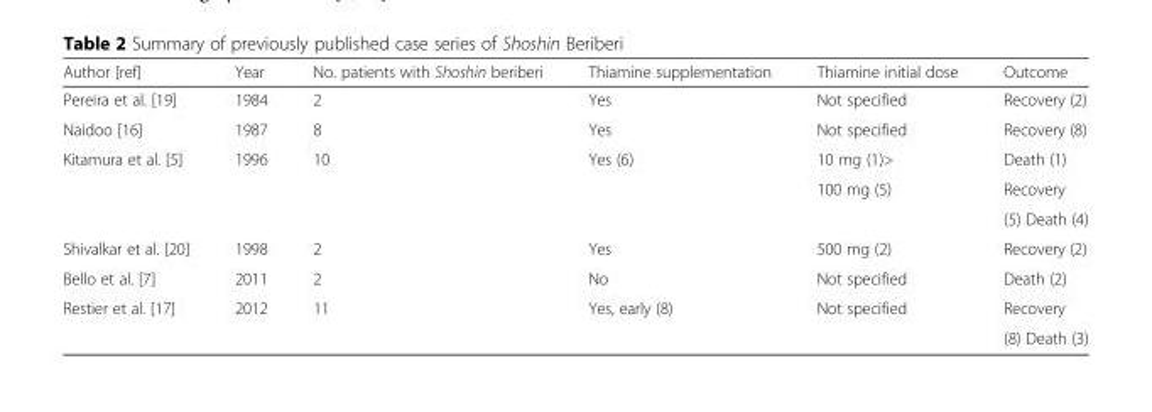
<table><thead><tr><td>Author [ref]</td><td>Year</td><td>No. patients with Shoshin beriberi</td><td>Thiamine supplementation</td><td>Thiamine initial dose</td><td>Outcome</td></tr></thead><tbody><tr><td>Pereira et al. [19]</td><td>1984</td><td>2</td><td>Yes</td><td>Not specified</td><td>Recovery (2)</td></tr><tr><td>Naidoo [16]</td><td>1987</td><td>8</td><td>Yes</td><td>Not specified</td><td>Recovery (8)</td></tr><tr><td rowspan="3">Kitamura et al. [5]</td><td rowspan="3">1996</td><td rowspan="3">10</td><td rowspan="3">Yes (6)</td><td>10 mg (1)&gt;</td><td>Death (1)</td></tr><tr><td rowspan="2">100 mg (5)</td><td>Recovery</td></tr><tr><td>(5) Death (4)</td></tr><tr><td>Shivalkar et al. [20]</td><td>1998</td><td>2</td><td>Yes</td><td>500 mg (2)</td><td>Recovery (2)</td></tr><tr><td>Bello et al. [7]</td><td>2011</td><td>2</td><td>No</td><td>Not specified</td><td>Death (2)</td></tr><tr><td rowspan="2">Restier et al. [17]</td><td rowspan="2">2012</td><td rowspan="2">11</td><td rowspan="2">Yes, early (8)</td><td rowspan="2">Not specified</td><td>Recovery</td></tr><tr><td>(8) Death (3)</td></tr></tbody></table>